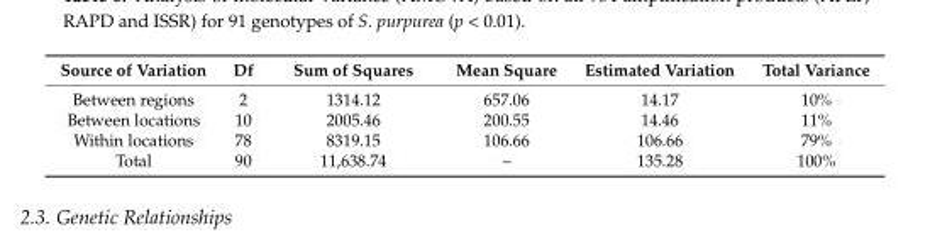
<table><thead><tr><td>Source of Variation</td><td>Df</td><td>Sum of Squares</td><td>Mean Square</td><td>Estimated Variation</td><td>Total Variance</td></tr></thead><tbody><tr><td>Between regions</td><td>2</td><td>1314.12</td><td>657.06</td><td>14.17</td><td>10%</td></tr><tr><td>Between locations</td><td>10</td><td>2005.46</td><td>200.55</td><td>14.46</td><td>11%</td></tr><tr><td>Within locations</td><td>78</td><td>8319.15</td><td>106.66</td><td>106.66</td><td>79%</td></tr><tr><td>Total</td><td>90</td><td>11,638.74</td><td>–</td><td>135.28</td><td>100%</td></tr></tbody></table>